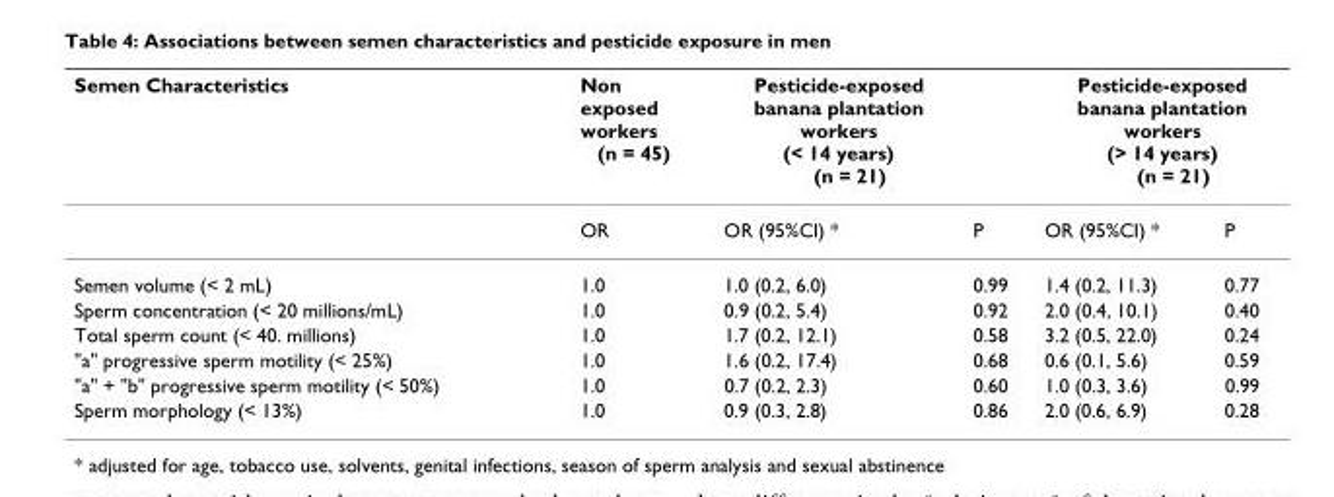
<table><thead><tr><td rowspan="2">Semen Characteristics</td><td rowspan="2">Non exposed workers (n = 45) OR</td><td rowspan="2">Pesticide-exposed banana plantation workers (&lt; 14 years) (n = 21) OR (95%CI) *</td><td rowspan="2">P</td><td colspan="2">Pesticide-exposed banana plantation workers (&gt; 14 years) (n = 21)</td></tr><tr><td>OR (95%CI) *</td><td>P</td></tr></thead><tbody><tr><td>Semen volume (&lt; 2 mL)</td><td>1.0</td><td>1.0 (0.2, 6.0)</td><td>0.99</td><td>1.4 (0.2, 11.3)</td><td>0.77</td></tr><tr><td>Sperm concentration (&lt; 20 millions/mL)</td><td>1.0</td><td>0.9 (0.2, 5.4)</td><td>0.92</td><td>2.0 (0.4, 10.1)</td><td>0.40</td></tr><tr><td>Total sperm count (&lt; 40. millions)</td><td>1.0</td><td>1.7 (0.2, 12.1)</td><td>0.58</td><td>3.2 (0.5, 22.0)</td><td>0.24</td></tr><tr><td>&quot;a&quot; progressive sperm motility (&lt; 25%)</td><td>1.0</td><td>1.6 (0.2, 17.4)</td><td>0.68</td><td>0.6 (0.1, 5.6)</td><td>0.59</td></tr><tr><td>&quot;a&quot; + &quot;b&quot; progressive sperm motility (&lt; 50%)</td><td>1.0</td><td>0.7 (0.2, 2.3)</td><td>0.60</td><td>1.0 (0.3, 3.6)</td><td>0.99</td></tr><tr><td>Sperm morphology (&lt; 13%)</td><td>1.0</td><td>0.9 (0.3, 2.8)</td><td>0.86</td><td>2.0 (0.6, 6.9)</td><td>0.28</td></tr></tbody></table>